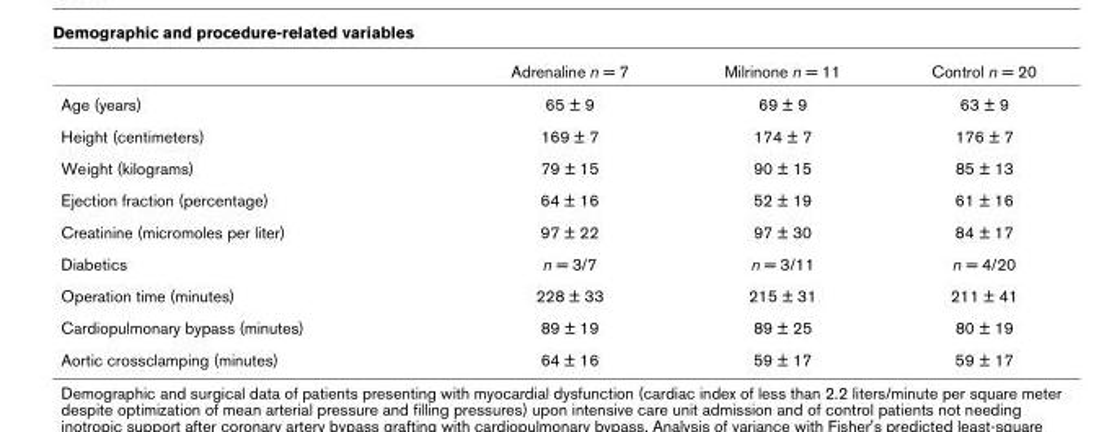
<table><thead><tr><td></td><td>Adrenaline n = 7</td><td>Milrinone n = 11</td><td>Control n = 20</td></tr></thead><tbody><tr><td>Age (years)</td><td>65 ± 9</td><td>69 ± 9</td><td>63 ± 9</td></tr><tr><td>Height (centimeters)</td><td>169 ± 7</td><td>174 ± 7</td><td>176 ± 7</td></tr><tr><td>Weight (kilograms)</td><td>79 ± 15</td><td>90 ± 15</td><td>85 ± 13</td></tr><tr><td>Ejection fraction (percentage)</td><td>64 ± 16</td><td>52 ± 19</td><td>61 ± 16</td></tr><tr><td>Creatinine (micromoles per liter)</td><td>97 ± 22</td><td>97 ± 30</td><td>84 ± 17</td></tr><tr><td>Diabetics</td><td>n = 3/7</td><td>n = 3/11</td><td>n = 4/20</td></tr><tr><td>Operation time (minutes)</td><td>228 ± 33</td><td>215 ± 31</td><td>211 ± 41</td></tr><tr><td>Cardiopulmonary bypass (minutes)</td><td>89 ± 19</td><td>89 ± 25</td><td>80 ± 19</td></tr><tr><td>Aortic crossclamping (minutes)</td><td>64 ± 16</td><td>59 ± 17</td><td>59 ± 17</td></tr></tbody></table>